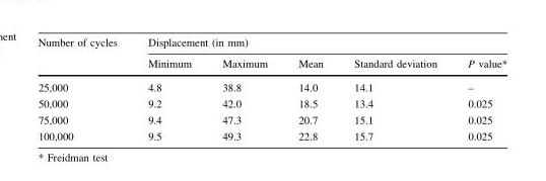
<table><thead><tr><td rowspan="2">Number of cycles</td><td colspan="5">Displacement (in mm)</td></tr><tr><td>Minimum</td><td>Maximum</td><td>Mean</td><td>Standard deviation</td><td>P value*</td></tr></thead><tbody><tr><td>25,000</td><td>4.8</td><td>38.8</td><td>14.0</td><td>14.1</td><td>–</td></tr><tr><td>50,000</td><td>9.2</td><td>42.0</td><td>18.5</td><td>13.4</td><td>0.025</td></tr><tr><td>75,000</td><td>9.4</td><td>47.3</td><td>20.7</td><td>15.1</td><td>0.025</td></tr><tr><td>100,000</td><td>9.5</td><td>49.3</td><td>22.8</td><td>15.7</td><td>0.025</td></tr></tbody></table>